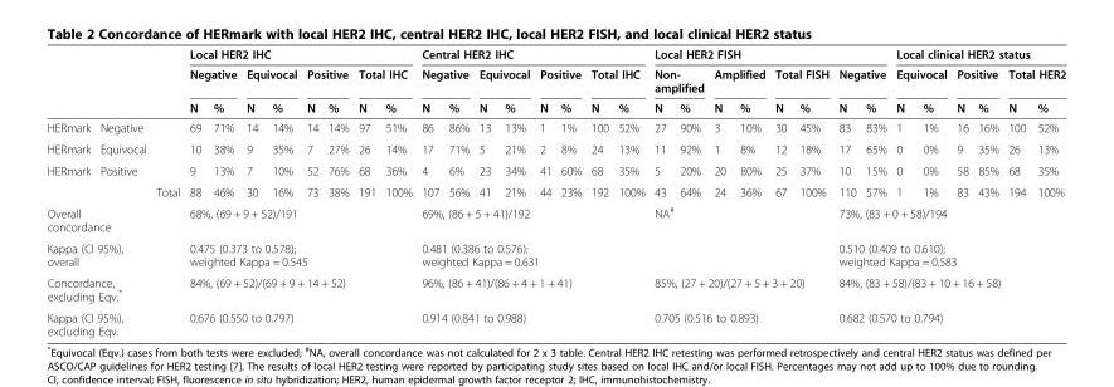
<table><thead><tr><td rowspan="3"></td><td rowspan="3"></td><td rowspan="3"></td><td colspan="8">Local HER2 IHC</td><td colspan="8">Central HER2 IHC</td><td colspan="8">Local HER2 FISH</td><td colspan="6">Local clinical HER2 status</td></tr><tr><td colspan="2">Negative</td><td colspan="2">Equivocal</td><td colspan="2">Positive</td><td colspan="2">Total IHC</td><td colspan="2">Negative</td><td colspan="2">Equivocal</td><td colspan="2">Positive</td><td colspan="2">Total IHC</td><td colspan="2">Non- amplified</td><td colspan="2">Amplified</td><td colspan="2">Total FISH</td><td colspan="2">Negative</td><td colspan="2">Equivocal</td><td colspan="2">Positive</td><td colspan="2">Total HER2</td></tr><tr><td>N</td><td>%</td><td>N</td><td>%</td><td>N</td><td>%</td><td>N</td><td>%</td><td>N</td><td>%</td><td>N</td><td>%</td><td>N</td><td>%</td><td>N</td><td>%</td><td>N</td><td>%</td><td>N</td><td>%</td><td>N</td><td>%</td><td>N</td><td>%</td><td>N</td><td>%</td><td>N</td><td>%</td><td>N</td><td>%</td></tr></thead><tbody><tr><td>HERmark</td><td>Negative</td><td></td><td>69</td><td>71%</td><td>14</td><td>14%</td><td>14</td><td>14%</td><td>97</td><td>51%</td><td>86</td><td>86%</td><td>13</td><td>13%</td><td>1</td><td>1%</td><td>100</td><td>52%</td><td>27</td><td>90%</td><td>3</td><td>10%</td><td>30</td><td>45%</td><td>83</td><td>83%</td><td>1</td><td>1%</td><td>16</td><td>16%</td><td>100</td><td>52%</td></tr><tr><td>HERmark</td><td>Equivocal</td><td></td><td>10</td><td>38%</td><td>9</td><td>35%</td><td>7</td><td>27%</td><td>26</td><td>14%</td><td>17</td><td>71%</td><td>5</td><td>21%</td><td>2</td><td>8%</td><td>24</td><td>13%</td><td>11</td><td>92%</td><td>1</td><td>8%</td><td>12</td><td>18%</td><td>17</td><td>65%</td><td>0</td><td>0%</td><td>9</td><td>35%</td><td>26</td><td>13%</td></tr><tr><td rowspan="2">HERmark</td><td>Positive</td><td></td><td>9</td><td>13%</td><td>7</td><td>10%</td><td>52</td><td>76%</td><td>68</td><td>36%</td><td>4</td><td>6%</td><td>23</td><td>34%</td><td>41</td><td>60%</td><td>68</td><td>35%</td><td>5</td><td>20%</td><td>20</td><td>80%</td><td>25</td><td>37%</td><td>10</td><td>15%</td><td>0</td><td>0%</td><td>58</td><td>85%</td><td>68</td><td>35%</td></tr><tr><td></td><td>Total</td><td>88</td><td>46%</td><td>30</td><td>16%</td><td>73</td><td>38%</td><td>191</td><td>100%</td><td>107</td><td>56%</td><td>41</td><td>21%</td><td>44</td><td>23%</td><td>192</td><td>100%</td><td>43</td><td>64%</td><td>24</td><td>36%</td><td>67</td><td>100%</td><td>110</td><td>57%</td><td>1</td><td>1%</td><td>83</td><td>43%</td><td>194</td><td>100%</td></tr><tr><td colspan="2">Overall concordance</td><td></td><td colspan="8">68%, (69 + 9 + 52)/191</td><td colspan="8">69%, (86 + 5 + 41)/192</td><td colspan="6">NA<sup>#</sup></td><td colspan="8">73%, (83 + 0 + 58)/194</td></tr><tr><td colspan="2">Kappa (CI 95%), overall</td><td></td><td colspan="8">0.475 (0.373 to 0.578); weighted Kappa = 0.545</td><td colspan="8">0.481 (0.386 to 0.576); weighted Kappa = 0.631</td><td colspan="6"></td><td colspan="8">0.510 (0.409 to 0.610); weighted Kappa = 0.583</td></tr><tr><td colspan="2">Concordance, excluding Eqv.*</td><td></td><td colspan="8">84%, (69 + 52)/(69 + 9 + 14 + 52)</td><td colspan="8">96%, (86 + 41)/(86 + 4 + 1 + 41)</td><td colspan="6">85%, (27 + 20)/(27 + 5 + 3 + 20)</td><td colspan="8">84%, (83 + 58)/(83 + 10 + 16 + 58)</td></tr><tr><td colspan="2">Kappa (CI 95%), excluding Eqv.</td><td></td><td colspan="8">0.676 (0.550 to 0.797)</td><td colspan="8">0.914 (0.841 to 0.988)</td><td colspan="6">0.705 (0.516 to 0.893)</td><td colspan="8">0.682 (0.570 to 0.794)</td></tr></tbody></table>